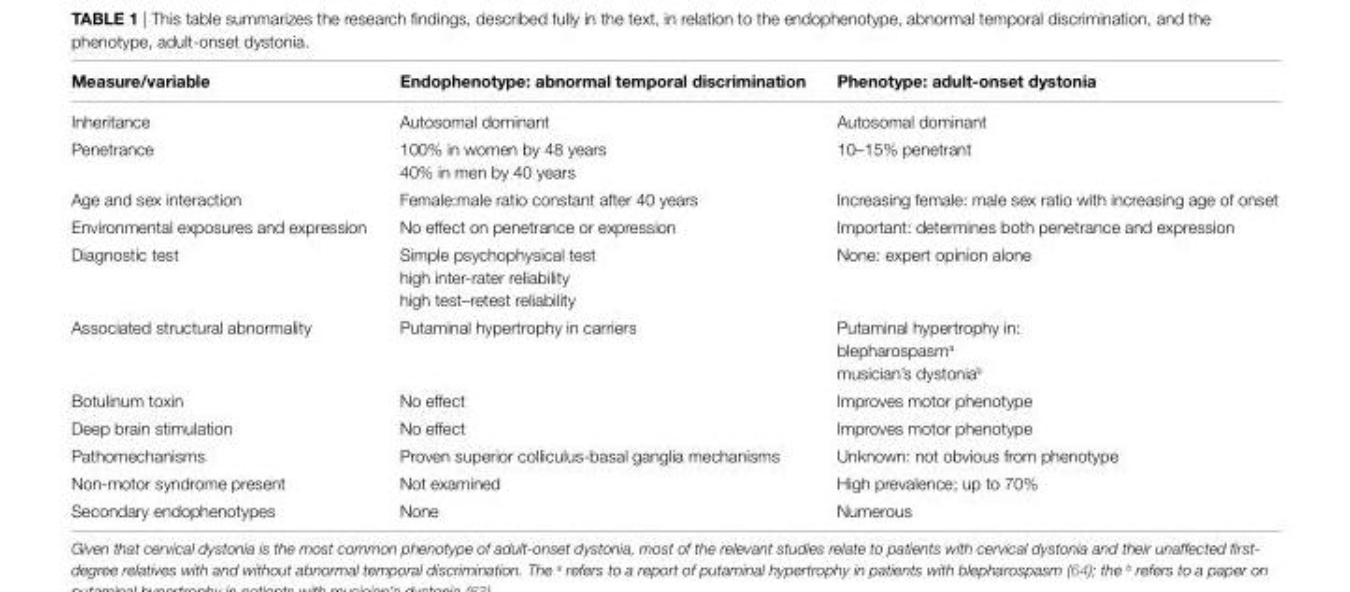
<table><thead><tr><td>Measure/variable</td><td>endophenotype: abnormal temporal discrimination</td><td>Phenotype: adult-onset dystonia</td></tr></thead><tbody><tr><td>Inheritance</td><td>Autosomal dominant</td><td>Autosomal dominant</td></tr><tr><td>Penetrance</td><td>100% in women by 48 years 40% in men by 40 years</td><td>10–15% penetrant</td></tr><tr><td>Age and sex interaction</td><td>Female:male ratio constant after 40 years</td><td>Increasing female: male sex ratio with increasing age of onset</td></tr><tr><td>Environmental exposures and expression</td><td>No effect on penetrance or expression</td><td>Important: determines both penetrance and expression</td></tr><tr><td>Diagnostic test</td><td>Simple psychophysical test high inter-rater reliability high test–retest reliability</td><td>None: expert opinion alone</td></tr><tr><td>Associated structural abnormality</td><td>Putaminal hypertrophy in carriers</td><td>Putaminal hypertrophy in: blepharospasm<sup>a</sup> musician’s dystonia<sup>b</sup></td></tr><tr><td>Botulinum toxin</td><td>No effect</td><td>Improves motor phenotype</td></tr><tr><td>Deep brain stimulation</td><td>No effect</td><td>Improves motor phenotype</td></tr><tr><td>Pathomechanisms</td><td>Proven superior colliculus-basal ganglia mechanisms</td><td>Unknown: not obvious from phenotype</td></tr><tr><td>Non-motor syndrome present</td><td>Not examined</td><td>High prevalence; up to 70%</td></tr><tr><td>Secondary endophenotypes</td><td>None</td><td>Numerous</td></tr></tbody></table>